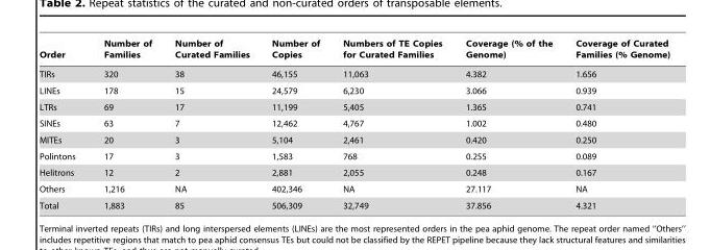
<table><thead><tr><td>Order</td><td>Number of Families</td><td>Number of Curated Families</td><td>Number of Copies</td><td>Numbers of TE Copies for Curated Families</td><td>Coverage (% of the Genome)</td><td>Coverage of Curated Families (% Genome)</td></tr></thead><tbody><tr><td>TIRs</td><td>320</td><td>38</td><td>46,155</td><td>11,063</td><td>4.382</td><td>1.656</td></tr><tr><td>LINEs</td><td>178</td><td>15</td><td>24,579</td><td>6,230</td><td>3.066</td><td>0.939</td></tr><tr><td>LTRs</td><td>69</td><td>17</td><td>11,199</td><td>5,405</td><td>1.365</td><td>0.741</td></tr><tr><td>SINEs</td><td>63</td><td>7</td><td>12,462</td><td>4,767</td><td>1.002</td><td>0.480</td></tr><tr><td>MITEs</td><td>20</td><td>3</td><td>5,104</td><td>2,461</td><td>0.420</td><td>0.250</td></tr><tr><td>Polintons</td><td>17</td><td>3</td><td>1,583</td><td>768</td><td>0.255</td><td>0.089</td></tr><tr><td>Helitrons</td><td>12</td><td>2</td><td>2,881</td><td>2,055</td><td>0.248</td><td>0.167</td></tr><tr><td>Others</td><td>1,216</td><td>NA</td><td>402,346</td><td>NA</td><td>27.117</td><td>NA</td></tr><tr><td>Total</td><td>1,883</td><td>85</td><td>506,309</td><td>32,749</td><td>37.856</td><td>4.321</td></tr></tbody></table>